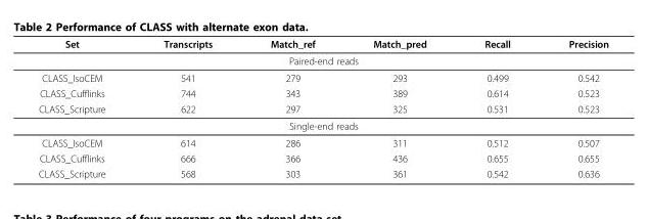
<table><thead><tr><td>Set</td><td>Transcripts</td><td>Match_ref</td><td>Match_pred</td><td>Recall</td><td>Precision</td></tr></thead><tbody><tr><td colspan="6">Paired-end reads</td></tr><tr><td>CLASS_IsoCEM</td><td>541</td><td>279</td><td>293</td><td>0.499</td><td>0.542</td></tr><tr><td>CLASS_Cufflinks</td><td>744</td><td>343</td><td>389</td><td>0.614</td><td>0.523</td></tr><tr><td>CLASS_Scripture</td><td>622</td><td>297</td><td>325</td><td>0.531</td><td>0.523</td></tr><tr><td colspan="6">Single-end reads</td></tr><tr><td>CLASS_IsoCEM</td><td>614</td><td>286</td><td>311</td><td>0.512</td><td>0.507</td></tr><tr><td>CLASS_Cufflinks</td><td>666</td><td>366</td><td>436</td><td>0.655</td><td>0.655</td></tr><tr><td>CLASS_Scripture</td><td>568</td><td>303</td><td>361</td><td>0.542</td><td>0.636</td></tr></tbody></table>